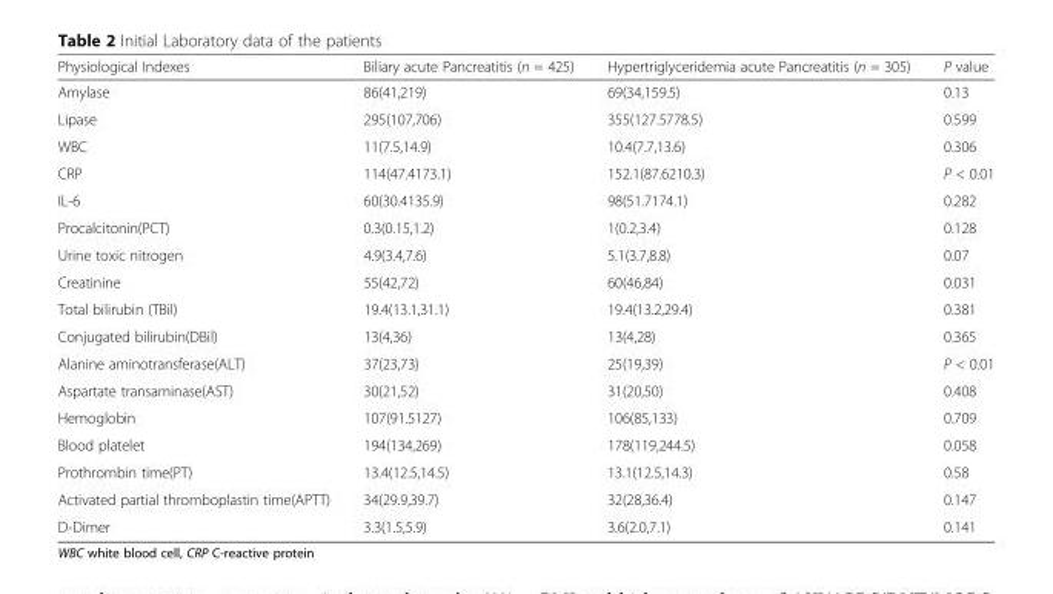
<table><thead><tr><td>Physiological Indexes</td><td>Biliary acute Pancreatitis (n = 425)</td><td>Hypertriglyceridemia acute Pancreatitis (n = 305)</td><td>P value</td></tr></thead><tbody><tr><td>Amylase</td><td>86(41,219)</td><td>69(34,159.5)</td><td>0.13</td></tr><tr><td>Lipase</td><td>295(107,706)</td><td>355(127.5778.5)</td><td>0.599</td></tr><tr><td>WBC</td><td>11(7.5,14.9)</td><td>10.4(7.7,13.6)</td><td>0.306</td></tr><tr><td>CRP</td><td>114(47.4173.1)</td><td>152.1(87.6210.3)</td><td>P &lt; 0.01</td></tr><tr><td>IL-6</td><td>60(30.4135.9)</td><td>98(51.7174.1)</td><td>0.282</td></tr><tr><td>Procalcitonin(PCT)</td><td>0.3(0.15,1.2)</td><td>1(0.2,3.4)</td><td>0.128</td></tr><tr><td>Urine toxic nitrogen</td><td>4.9(3.4,7.6)</td><td>5.1(3.7,8.8)</td><td>0.07</td></tr><tr><td>Creatinine</td><td>55(42,72)</td><td>60(46,84)</td><td>0.031</td></tr><tr><td>Total bilirubin (TBil)</td><td>19.4(13.1,31.1)</td><td>19.4(13.2,29.4)</td><td>0.381</td></tr><tr><td>Conjugated bilirubin(DBil)</td><td>13(4,36)</td><td>13(4,28)</td><td>0.365</td></tr><tr><td>Alanine aminotransferase(ALT)</td><td>37(23,73)</td><td>25(19,39)</td><td>P &lt; 0.01</td></tr><tr><td>Aspartate transaminase(AST)</td><td>30(21,52)</td><td>31(20,50)</td><td>0.408</td></tr><tr><td>Hemoglobin</td><td>107(91.5127)</td><td>106(85,133)</td><td>0.709</td></tr><tr><td>Blood platelet</td><td>194(134,269)</td><td>178(119,244.5)</td><td>0.058</td></tr><tr><td>Prothrombin time(PT)</td><td>13.4(12.5,14.5)</td><td>13.1(12.5,14.3)</td><td>0.58</td></tr><tr><td>Activated partial thromboplastin time(APTT)</td><td>34(29.9,39.7)</td><td>32(28,36.4)</td><td>0.147</td></tr><tr><td>D-Dimer</td><td>3.3(1.5,5.9)</td><td>3.6(2.0,7.1)</td><td>0.141</td></tr></tbody></table>